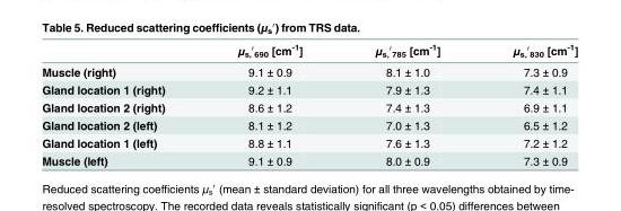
<table><thead><tr><td></td><td>μ<sub>s,</sub>′<sub>690</sub> [cm<sup>-1</sup>]</td><td>μ<sub>s,</sub>′<sub>785</sub> [cm<sup>-1</sup>]</td><td>μ<sub>s,</sub>′<sub>830</sub> [cm<sup>-1</sup>]</td></tr></thead><tbody><tr><td>Muscle (right)</td><td>9.1 ± 0.9</td><td>8.1 ± 1.0</td><td>7.3 ± 0.9</td></tr><tr><td>Gland location 1 (right)</td><td>9.2 ± 1.1</td><td>7.9 ± 1.3</td><td>7.4 ± 1.1</td></tr><tr><td>Gland location 2 (right)</td><td>8.6 ± 1.2</td><td>7.4 ± 1.3</td><td>6.9 ± 1.1</td></tr><tr><td>Gland location 2 (left)</td><td>8.1 ± 1.2</td><td>7.0 ± 1.3</td><td>6.5 ± 1.2</td></tr><tr><td>Gland location 1 (left)</td><td>8.8 ± 1.1</td><td>7.6 ± 1.3</td><td>7.2 ± 1.2</td></tr><tr><td>Muscle (left)</td><td>9.1 ± 0.9</td><td>8.0 ± 0.9</td><td>7.3 ± 0.9</td></tr></tbody></table>